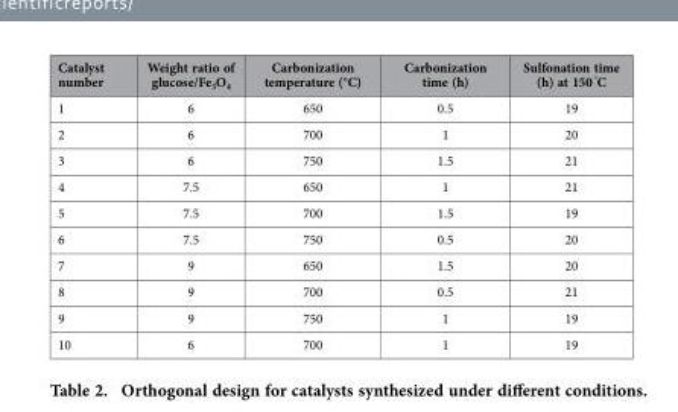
<table><thead><tr><td>Catalyst number</td><td>Weight ratio of glucose/Fe<sub>3</sub>O<sub>4</sub></td><td>Carbonization temperature (°C)</td><td>Carbonization time (h)</td><td>Sulfonation time (h) at 150 <sup>°</sup>C</td></tr></thead><tbody><tr><td>1</td><td>6</td><td>650</td><td>0.5</td><td>19</td></tr><tr><td>2</td><td>6</td><td>700</td><td>1</td><td>20</td></tr><tr><td>3</td><td>6</td><td>750</td><td>1.5</td><td>21</td></tr><tr><td>4</td><td>7.5</td><td>650</td><td>1</td><td>21</td></tr><tr><td>5</td><td>7.5</td><td>700</td><td>1.5</td><td>19</td></tr><tr><td>6</td><td>7.5</td><td>750</td><td>0.5</td><td>20</td></tr><tr><td>7</td><td>9</td><td>650</td><td>1.5</td><td>20</td></tr><tr><td>8</td><td>9</td><td>700</td><td>0.5</td><td>21</td></tr><tr><td>9</td><td>9</td><td>750</td><td>1</td><td>19</td></tr><tr><td>10</td><td>6</td><td>700</td><td>1</td><td>19</td></tr></tbody></table>